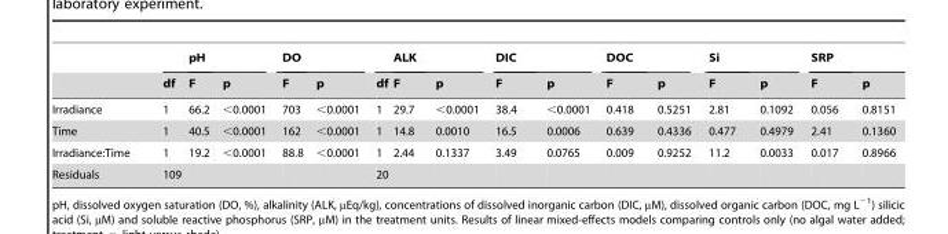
<table><thead><tr><td rowspan="2"></td><td rowspan="2">df</td><td rowspan="2">pH F</td><td rowspan="2">p</td><td rowspan="2">DO F</td><td rowspan="2">p</td><td rowspan="2">df</td><td rowspan="2">ALK F</td><td rowspan="2">p</td><td rowspan="2">DIC F</td><td rowspan="2">p</td><td rowspan="2">DOC F</td><td rowspan="2">p</td><td rowspan="2">Si F</td><td rowspan="2">p</td><td rowspan="2">SRP F</td><td rowspan="2">p</td></tr><tr></tr></thead><tbody><tr><td>Irradiance</td><td>1</td><td>66.2</td><td>&lt;0.0001</td><td>703</td><td>&lt;0.0001</td><td>1</td><td>29.7</td><td>&lt;0.0001</td><td>38.4</td><td>&lt;0.0001</td><td>0.418</td><td>0.5251</td><td>2.81</td><td>0.1092</td><td>0.056</td><td>0.8151</td></tr><tr><td>Time</td><td>1</td><td>40.5</td><td>&lt;0.0001</td><td>162</td><td>&lt;0.0001</td><td>1</td><td>14.8</td><td>0.0010</td><td>16.5</td><td>0.0006</td><td>0.639</td><td>0.4336</td><td>0.477</td><td>0.4979</td><td>2.41</td><td>0.1360</td></tr><tr><td>Irradiance:Time</td><td>1</td><td>19.2</td><td>&lt;0.0001</td><td>88.8</td><td>&lt;0.0001</td><td>1</td><td>2.44</td><td>0.1337</td><td>3.49</td><td>0.0765</td><td>0.009</td><td>0.9252</td><td>11.2</td><td>0.0033</td><td>0.017</td><td>0.8966</td></tr><tr><td>Residuals</td><td>109</td><td></td><td></td><td></td><td></td><td>20</td><td></td><td></td><td></td><td></td><td></td><td></td><td></td><td></td><td></td><td></td></tr></tbody></table>